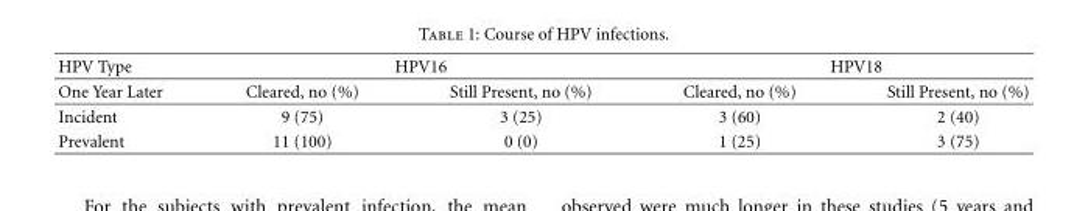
<table><thead><tr><td rowspan="2">HPV Type One Year Later</td><td colspan="2">HPV16</td><td colspan="2">HPV18</td></tr><tr><td>Cleared, no (%)</td><td>Still Present, no (%)</td><td>Cleared, no (%)</td><td>Still Present, no (%)</td></tr></thead><tbody><tr><td>Incident</td><td>9 (75)</td><td>3 (25)</td><td>3 (60)</td><td>2 (40)</td></tr><tr><td>Prevalent</td><td>11 (100)</td><td>0 (0)</td><td>1 (25)</td><td>3 (75)</td></tr></tbody></table>